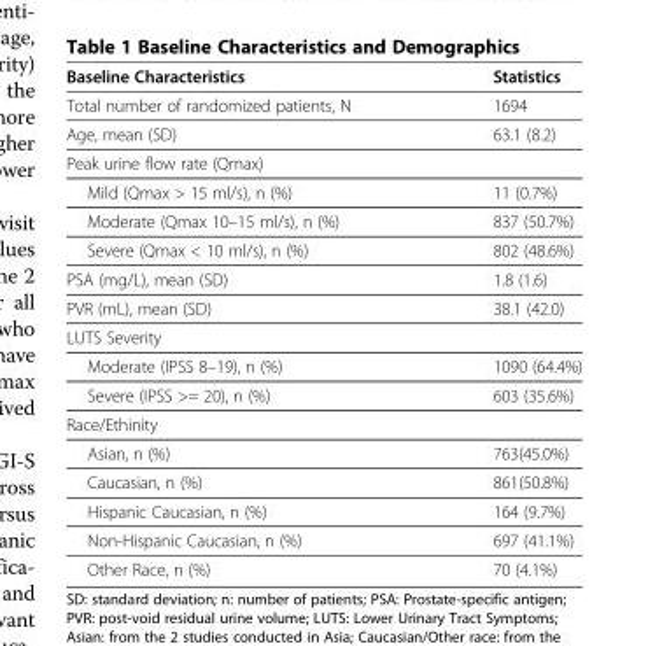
<table><thead><tr><td>Baseline Characteristics</td><td>Statistics</td></tr></thead><tbody><tr><td>Total number of randomized patients, N</td><td>1694</td></tr><tr><td>Age, mean (SD)</td><td>63.1 (8.2)</td></tr><tr><td colspan="2">Peak urine flow rate (Qmax)</td></tr><tr><td>Mild (Qmax &gt; 15 ml/s), n (%)</td><td>11 (0.7%)</td></tr><tr><td>Moderate (Qmax 10–15 ml/s), n (%)</td><td>837 (50.7%)</td></tr><tr><td>Severe (Qmax &lt; 10 ml/s), n (%)</td><td>802 (48.6%)</td></tr><tr><td>PSA (mg/L), mean (SD)</td><td>1.8 (1.6)</td></tr><tr><td>PVR (mL), mean (SD)</td><td>38.1 (42.0)</td></tr><tr><td colspan="2">LUTS Severity</td></tr><tr><td>Moderate (IPSS 8–19), n (%)</td><td>1090 (64.4%)</td></tr><tr><td>Severe (IPSS &gt;= 20), n (%)</td><td>603 (35.6%)</td></tr><tr><td colspan="2">Race/Ethinity</td></tr><tr><td>Asian, n (%)</td><td>763(45.0%)</td></tr><tr><td>Caucasian, n (%)</td><td>861(50.8%)</td></tr><tr><td>Hispanic Caucasian, n (%)</td><td>164 (9.7%)</td></tr><tr><td>Non-Hispanic Caucasian, n (%)</td><td>697 (41.1%)</td></tr><tr><td>Other Race, n (%)</td><td>70 (4.1%)</td></tr></tbody></table>